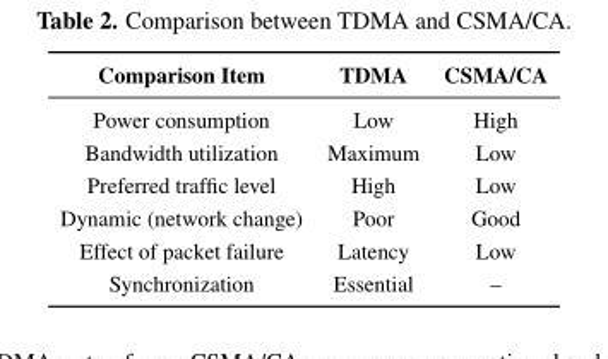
<table><thead><tr><td>Comparison Item</td><td>TDMA</td><td>CSMA/CA</td></tr></thead><tbody><tr><td>Power consumption</td><td>Low</td><td>High</td></tr><tr><td>Bandwidth utilization</td><td>Maximum</td><td>Low</td></tr><tr><td>Preferred traffic level</td><td>High</td><td>Low</td></tr><tr><td>Dynamic (network change)</td><td>Poor</td><td>Good</td></tr><tr><td>Effect of packet failure</td><td>Latency</td><td>Low</td></tr><tr><td>Synchronization</td><td>Essential</td><td>–</td></tr></tbody></table>